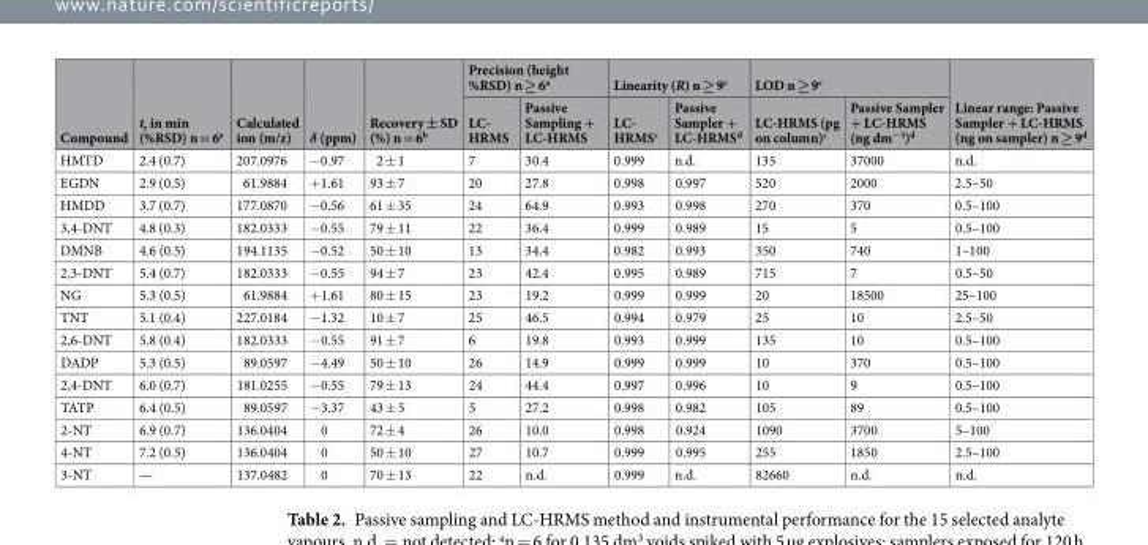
<table><thead><tr><td rowspan="2">Compound</td><td rowspan="2">t<sub>r</sub> in min (%RSD) n = 6<sup>a</sup></td><td rowspan="2">Calculated ion (m/z)</td><td rowspan="2">δ (ppm)</td><td rowspan="2">Recovery ± SD (%) n = 6<sup>b</sup></td><td colspan="2">Precision (height %RSD) n ≥ 6<sup>a</sup></td><td colspan="2">Linearity (R) n ≥ 9<sup>c</sup></td><td colspan="2">LOD n ≥ 9<sup>c</sup></td><td rowspan="2">Linear range: Passive Sampler + LC-HRMS (ng on sampler) n ≥ 9<sup>d</sup></td></tr><tr><td>LC- HRMS</td><td>Passive Sampling + LC-HRMS</td><td>LC- HRMS<sup>c</sup></td><td>Passive Sampler + LC-HRMS<sup>d</sup></td><td>LC-HRMS (pg on column)<sup>c</sup></td><td>Passive Sampler + LC-HRMS (ng dm<sup>−3</sup>)<sup>d</sup></td></tr></thead><tbody><tr><td>HMTD</td><td>2.4 (0.7)</td><td>207.0976</td><td>−0.97</td><td>2 ± 1</td><td>7</td><td>30.4</td><td>0.999</td><td>n.d.</td><td>135</td><td>37000</td><td>n.d.</td></tr><tr><td>EGDN</td><td>2.9 (0.5)</td><td>61.9884</td><td>+1.61</td><td>93 ± 7</td><td>20</td><td>27.8</td><td>0.998</td><td>0.997</td><td>520</td><td>2000</td><td>2.5–50</td></tr><tr><td>HMDD</td><td>3.7 (0.7)</td><td>177.0870</td><td>−0.56</td><td>61 ± 35</td><td>24</td><td>64.9</td><td>0.993</td><td>0.998</td><td>270</td><td>370</td><td>0.5–100</td></tr><tr><td>3,4-DNT</td><td>4.8 (0.3)</td><td>182.0333</td><td>−0.55</td><td>79 ± 11</td><td>22</td><td>36.4</td><td>0.999</td><td>0.989</td><td>15</td><td>5</td><td>0.5–100</td></tr><tr><td>DMNB</td><td>4.6 (0.5)</td><td>194.1135</td><td>−0.52</td><td>50 ± 10</td><td>13</td><td>34.4</td><td>0.982</td><td>0.993</td><td>350</td><td>740</td><td>1–100</td></tr><tr><td>2,3-DNT</td><td>5.4 (0.7)</td><td>182.0333</td><td>−0.55</td><td>94 ± 7</td><td>23</td><td>42.4</td><td>0.995</td><td>0.989</td><td>715</td><td>7</td><td>0.5–50</td></tr><tr><td>NG</td><td>5.3 (0.5)</td><td>61.9884</td><td>+1.61</td><td>80 ± 15</td><td>23</td><td>19.2</td><td>0.999</td><td>0.999</td><td>20</td><td>18500</td><td>25–100</td></tr><tr><td>TNT</td><td>5.1 (0.4)</td><td>227.0184</td><td>−1.32</td><td>10 ± 7</td><td>25</td><td>46.5</td><td>0.994</td><td>0.979</td><td>25</td><td>10</td><td>2.5–50</td></tr><tr><td>2,6-DNT</td><td>5.8 (0.4)</td><td>182.0333</td><td>−0.55</td><td>91 ± 7</td><td>6</td><td>19.8</td><td>0.993</td><td>0.999</td><td>135</td><td>10</td><td>0.5–100</td></tr><tr><td>DADP</td><td>5.3 (0.5)</td><td>89.0597</td><td>−4.49</td><td>50 ± 10</td><td>26</td><td>14.9</td><td>0.999</td><td>0.999</td><td>10</td><td>370</td><td>0.5–100</td></tr><tr><td>2,4-DNT</td><td>6.0 (0.7)</td><td>181.0255</td><td>−0.55</td><td>79 ± 13</td><td>24</td><td>44.4</td><td>0.997</td><td>0.996</td><td>10</td><td>9</td><td>0.5–100</td></tr><tr><td>TATP</td><td>6.4 (0.5)</td><td>89.0597</td><td>−3.37</td><td>43 ± 5</td><td>5</td><td>27.2</td><td>0.998</td><td>0.982</td><td>105</td><td>89</td><td>0.5–100</td></tr><tr><td>2-NT</td><td>6.9 (0.7)</td><td>136.0404</td><td>0</td><td>72 ± 4</td><td>26</td><td>10.0</td><td>0.998</td><td>0.924</td><td>1090</td><td>3700</td><td>5–100</td></tr><tr><td>4-NT</td><td>7.2 (0.5)</td><td>136.0404</td><td>0</td><td>50 ± 10</td><td>27</td><td>10.7</td><td>0.999</td><td>0.995</td><td>255</td><td>1850</td><td>2.5–100</td></tr><tr><td>3-NT</td><td>—</td><td>137.0482</td><td>0</td><td>70 ± 13</td><td>22</td><td>n.d.</td><td>0.999</td><td>n.d.</td><td>82660</td><td>n.d.</td><td>n.d.</td></tr></tbody></table>